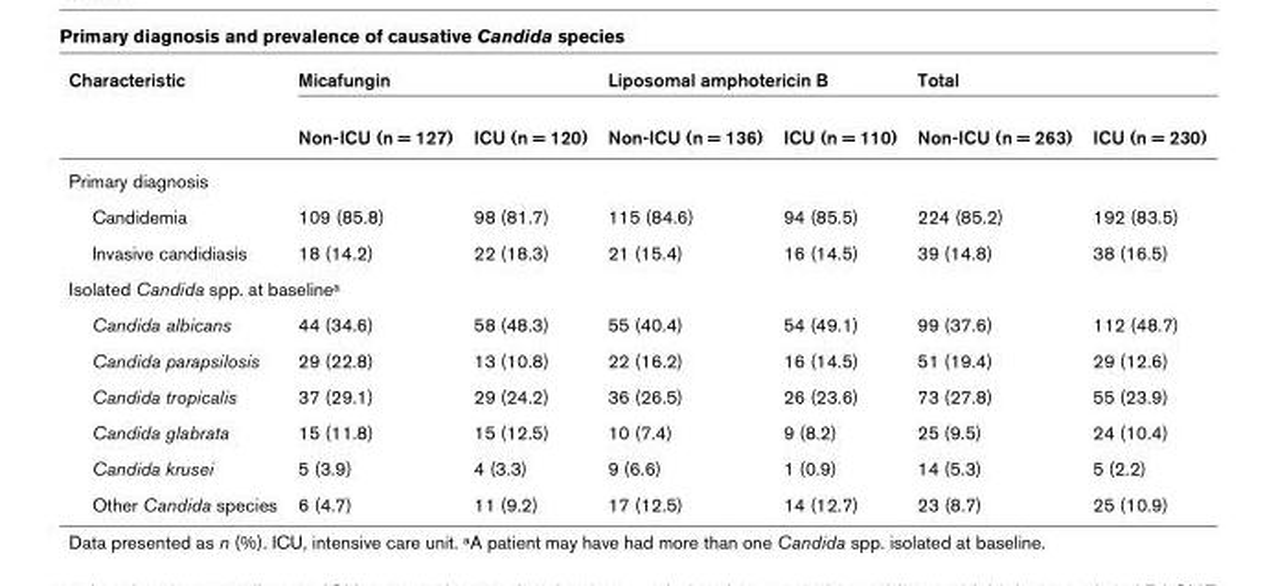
<table><thead><tr><td rowspan="2">Characteristic</td><td colspan="2">Micafungin</td><td colspan="2">Liposomal amphotericin B</td><td colspan="2">Total</td></tr><tr><td>Non-ICU (n = 127)</td><td>ICU (n = 120)</td><td>Non-ICU (n = 136)</td><td>ICU (n = 110)</td><td>Non-ICU (n = 263)</td><td>ICU (n = 230)</td></tr></thead><tbody><tr><td colspan="7">Primary diagnosis</td></tr><tr><td>Candidemia</td><td>109 (85.8)</td><td>98 (81.7)</td><td>115 (84.6)</td><td>94 (85.5)</td><td>224 (85.2)</td><td>192 (83.5)</td></tr><tr><td>Invasive candidiasis</td><td>18 (14.2)</td><td>22 (18.3)</td><td>21 (15.4)</td><td>16 (14.5)</td><td>39 (14.8)</td><td>38 (16.5)</td></tr><tr><td colspan="7">Isolated Candida spp. at baseline<sup>a</sup></td></tr><tr><td>Candida albicans</td><td>44 (34.6)</td><td>58 (48.3)</td><td>55 (40.4)</td><td>54 (49.1)</td><td>99 (37.6)</td><td>112 (48.7)</td></tr><tr><td>Candida parapsilosis</td><td>29 (22.8)</td><td>13 (10.8)</td><td>22 (16.2)</td><td>16 (14.5)</td><td>51 (19.4)</td><td>29 (12.6)</td></tr><tr><td>Candida tropicalis</td><td>37 (29.1)</td><td>29 (24.2)</td><td>36 (26.5)</td><td>26 (23.6)</td><td>73 (27.8)</td><td>55 (23.9)</td></tr><tr><td>Candida glabrata</td><td>15 (11.8)</td><td>15 (12.5)</td><td>10 (7.4)</td><td>9 (8.2)</td><td>25 (9.5)</td><td>24 (10.4)</td></tr><tr><td>Candida krusei</td><td>5 (3.9)</td><td>4 (3.3)</td><td>9 (6.6)</td><td>1 (0.9)</td><td>14 (5.3)</td><td>5 (2.2)</td></tr><tr><td>Other Candida species</td><td>6 (4.7)</td><td>11 (9.2)</td><td>17 (12.5)</td><td>14 (12.7)</td><td>23 (8.7)</td><td>25 (10.9)</td></tr></tbody></table>